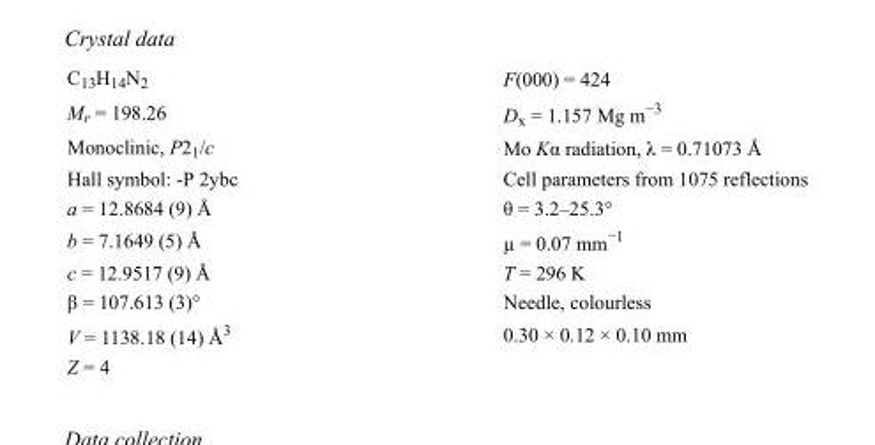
<table><tbody><tr><td>C<sub>13</sub>H<sub>14</sub>N<sub>2</sub></td><td>F(000) = 424</td></tr><tr><td>M<sub>r</sub> = 198.26</td><td>D<sub>x</sub> = 1.157 Mg m<sup>−3</sup></td></tr><tr><td>Monoclinic, P2<sub>1</sub>/c</td><td>Mo Kα radiation, λ = 0.71073 Å</td></tr><tr><td>Hall symbol: -P 2ybc</td><td>Cell parameters from 1075 reflections</td></tr><tr><td>a = 12.8684 (9) Å</td><td>θ = 3.2–25.3°</td></tr><tr><td>b = 7.1649 (5) Å</td><td>µ = 0.07 mm<sup>−1</sup></td></tr><tr><td>c = 12.9517 (9) Å</td><td>T = 296 K</td></tr><tr><td>β = 107.613 (3)°</td><td>Needle, colourless</td></tr><tr><td>V = 1138.18 (14) Å<sup>3</sup></td><td>0.30 × 0.12 × 0.10 mm</td></tr><tr><td>Z = 4</td><td></td></tr></tbody></table>